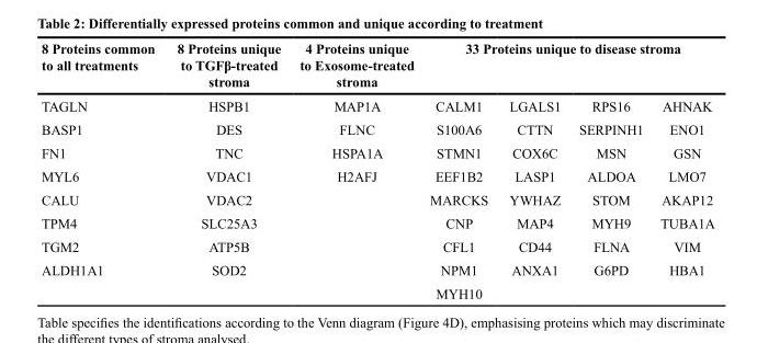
<table><thead><tr><td rowspan="2">8 Proteins common to all treatments TAGLN</td><td rowspan="2">8 Proteins unique to TGFβ-treated stroma HSPB1</td><td rowspan="2">4 Proteins unique to Exosome-treated stroma MAP1A</td><td colspan="4">33 Proteins unique to disease stroma</td></tr><tr><td>CALM1</td><td>LGALS1</td><td>RPS16</td><td>AHNAK</td></tr></thead><tbody><tr><td>BASP1</td><td>DES</td><td>FLNC</td><td>S100A6</td><td>CTTN</td><td>SERPINH1</td><td>ENO1</td></tr><tr><td>FN1</td><td>TNC</td><td>HSPA1A</td><td>STMN1</td><td>COX6C</td><td>MSN</td><td>GSN</td></tr><tr><td>MYL6</td><td>VDAC1</td><td>H2AFJ</td><td>EEF1B2</td><td>LASP1</td><td>ALDOA</td><td>LMO7</td></tr><tr><td>CALU</td><td>VDAC2</td><td></td><td>MARCKS</td><td>YWHAZ</td><td>STOM</td><td>AKAP12</td></tr><tr><td>TPM4</td><td>SLC25A3</td><td></td><td>CNP</td><td>MAP4</td><td>MYH9</td><td>TUBA1A</td></tr><tr><td>TGM2</td><td>ATP5B</td><td></td><td>CFL1</td><td>CD44</td><td>FLNA</td><td>VIM</td></tr><tr><td rowspan="2">ALDH1A1</td><td>SOD2</td><td></td><td>NPM1</td><td>ANXA1</td><td>G6PD</td><td>HBA1</td></tr><tr><td></td><td></td><td>MYH10</td><td></td><td></td><td></td></tr></tbody></table>